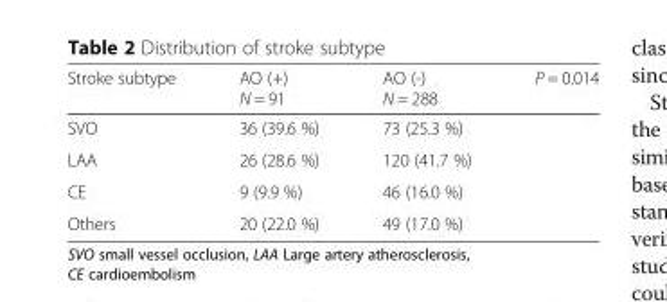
<table><thead><tr><td>Stroke subtype</td><td>AO (+) N = 91</td><td>AO (-) N = 288</td><td>P = 0.014</td></tr></thead><tbody><tr><td>SVO</td><td>36 (39.6 %)</td><td>73 (25.3 %)</td><td></td></tr><tr><td>LAA</td><td>26 (28.6 %)</td><td>120 (41.7 %)</td><td></td></tr><tr><td>CE</td><td>9 (9.9 %)</td><td>46 (16.0 %)</td><td></td></tr><tr><td>Others</td><td>20 (22.0 %)</td><td>49 (17.0 %)</td><td></td></tr></tbody></table>